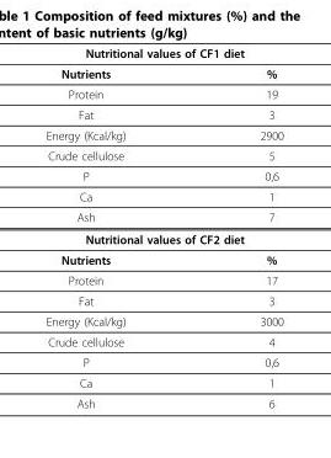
<table><thead><tr><td colspan="2">Nutritional values of CF1 diet</td></tr><tr><td>Nutrients</td><td>%</td></tr></thead><tbody><tr><td>Protein</td><td>19</td></tr><tr><td>Fat</td><td>3</td></tr><tr><td>Energy (Kcal/kg)</td><td>2900</td></tr><tr><td>Crude cellulose</td><td>5</td></tr><tr><td>P</td><td>0,6</td></tr><tr><td>Ca</td><td>1</td></tr><tr><td>Ash</td><td>7</td></tr><tr><td colspan="2">Nutritional values of CF2 diet</td></tr><tr><td>Nutrients</td><td>%</td></tr><tr><td>Protein</td><td>17</td></tr><tr><td>Fat</td><td>3</td></tr><tr><td>Energy (Kcal/kg)</td><td>3000</td></tr><tr><td>Crude cellulose</td><td>4</td></tr><tr><td>P</td><td>0,6</td></tr><tr><td>Ca</td><td>1</td></tr><tr><td>Ash</td><td>6</td></tr></tbody></table>